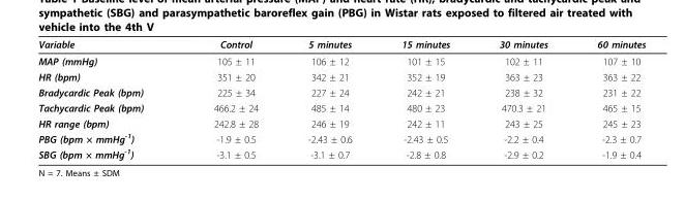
<table><thead><tr><td>Variable</td><td>Control</td><td>5 minutes</td><td>15 minutes</td><td>30 minutes</td><td>60 minutes</td></tr></thead><tbody><tr><td>MAP (mmHg)</td><td>105 ± 11</td><td>106 ± 12</td><td>101 ± 15</td><td>102 ± 11</td><td>107 ± 10</td></tr><tr><td>HR (bpm)</td><td>351 ± 20</td><td>342 ± 21</td><td>352 ± 19</td><td>363 ± 23</td><td>363 ± 22</td></tr><tr><td>Bradycardic Peak (bpm)</td><td>225 ± 34</td><td>227 ± 24</td><td>242 ± 21</td><td>238 ± 32</td><td>231 ± 22</td></tr><tr><td>Tachycardic Peak (bpm)</td><td>466.2 ± 24</td><td>485 ± 14</td><td>480 ± 23</td><td>470.3 ± 21</td><td>465 ± 15</td></tr><tr><td>HR range (bpm)</td><td>242.8 ± 28</td><td>246 ± 19</td><td>242 ± 11</td><td>243 ± 25</td><td>245 ± 23</td></tr><tr><td>PBG (bpm × mmHg<sup>-1</sup>)</td><td>-1.9 ± 0.5</td><td>-2.43 ± 0.6</td><td>-2.43 ± 0.5</td><td>-2.2 ± 0.4</td><td>-2.3 ± 0.7</td></tr><tr><td>SBG (bpm × mmHg<sup>-1</sup>)</td><td>-3.1 ± 0.5</td><td>-3.1 ± 0.7</td><td>-2.8 ± 0.8</td><td>-2.9 ± 0.2</td><td>-1.9 ± 0.4</td></tr></tbody></table>